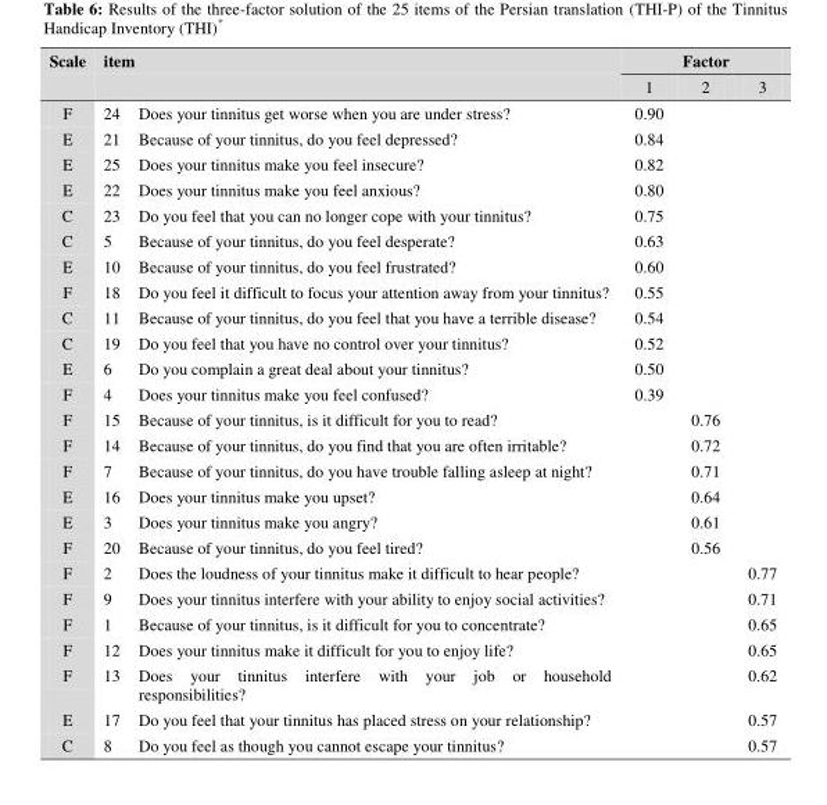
<table><thead><tr><td rowspan="3">Scale F</td><td rowspan="2" colspan="2">item</td><td colspan="3">Factor</td></tr><tr><td rowspan="2">1 0.90</td><td rowspan="2">2</td><td rowspan="2">3</td></tr><tr><td>24</td><td>Does your tinnitus get worse when you are under stress?</td></tr></thead><tbody><tr><td>E</td><td>21</td><td>Because of your tinnitus, do you feel depressed?</td><td>0.84</td><td></td><td></td></tr><tr><td>E</td><td>25</td><td>Does your tinnitus make you feel insecure?</td><td>0.82</td><td></td><td></td></tr><tr><td>E</td><td>22</td><td>Does your tinnitus make you feel anxious?</td><td>0.80</td><td></td><td></td></tr><tr><td>C</td><td>23</td><td>Do you feel that you can no longer cope with your tinnitus?</td><td>0.75</td><td></td><td></td></tr><tr><td>C</td><td>5</td><td>Because of your tinnitus, do you feel desperate?</td><td>0.63</td><td></td><td></td></tr><tr><td>E</td><td>10</td><td>Because of your tinnitus, do you feel frustrated?</td><td>0.60</td><td></td><td></td></tr><tr><td>F</td><td>18</td><td>Do you feel it difficult to focus your attention away from your tinnitus?</td><td>0.55</td><td></td><td></td></tr><tr><td>C</td><td>11</td><td>Because of your tinnitus, do you feel that you have a terrible disease?</td><td>0.54</td><td></td><td></td></tr><tr><td>C</td><td>19</td><td>Do you feel that you have no control over your tinnitus?</td><td>0.52</td><td></td><td></td></tr><tr><td>E</td><td>6</td><td>Do you complain a great deal about your tinnitus?</td><td>0.50</td><td></td><td></td></tr><tr><td>F</td><td>4</td><td>Does your tinnitus make you feel confused?</td><td>0.39</td><td></td><td></td></tr><tr><td>F</td><td>15</td><td>Because of your tinnitus, is it difficult for you to read?</td><td></td><td>0.76</td><td></td></tr><tr><td>F</td><td>14</td><td>Because of your tinnitus, do you find that you are often irritable?</td><td></td><td>0.72</td><td></td></tr><tr><td>F</td><td>7</td><td>Because of your tinnitus, do you have trouble falling asleep at night?</td><td></td><td>0.71</td><td></td></tr><tr><td>E</td><td>16</td><td>Does your tinnitus make you upset?</td><td></td><td>0.64</td><td></td></tr><tr><td>E</td><td>3</td><td>Does your tinnitus make you angry?</td><td></td><td>0.61</td><td></td></tr><tr><td>F</td><td>20</td><td>Because of your tinnitus, do you feel tired?</td><td></td><td>0.56</td><td></td></tr><tr><td>F</td><td>2</td><td>Does the loudness of your tinnitus make it difficult to hear people?</td><td></td><td></td><td>0.77</td></tr><tr><td>F</td><td>9</td><td>Does your tinnitus interfere with your ability to enjoy social activities?</td><td></td><td></td><td>0.71</td></tr><tr><td>F</td><td>1</td><td>Because of your tinnitus, is it difficult for you to concentrate?</td><td></td><td></td><td>0.65</td></tr><tr><td>F</td><td>12</td><td>Does your tinnitus make it difficult for you to enjoy life?</td><td></td><td></td><td>0.65</td></tr><tr><td>F</td><td>13</td><td>Does your tinnitus interfere with your job or household responsibilities?</td><td></td><td></td><td>0.62</td></tr><tr><td>E</td><td>17</td><td>Do you feel that your tinnitus has placed stress on your relationship?</td><td></td><td></td><td>0.57</td></tr><tr><td>C</td><td>8</td><td>Do you feel as though you cannot escape your tinnitus?</td><td></td><td></td><td>0.57</td></tr></tbody></table>